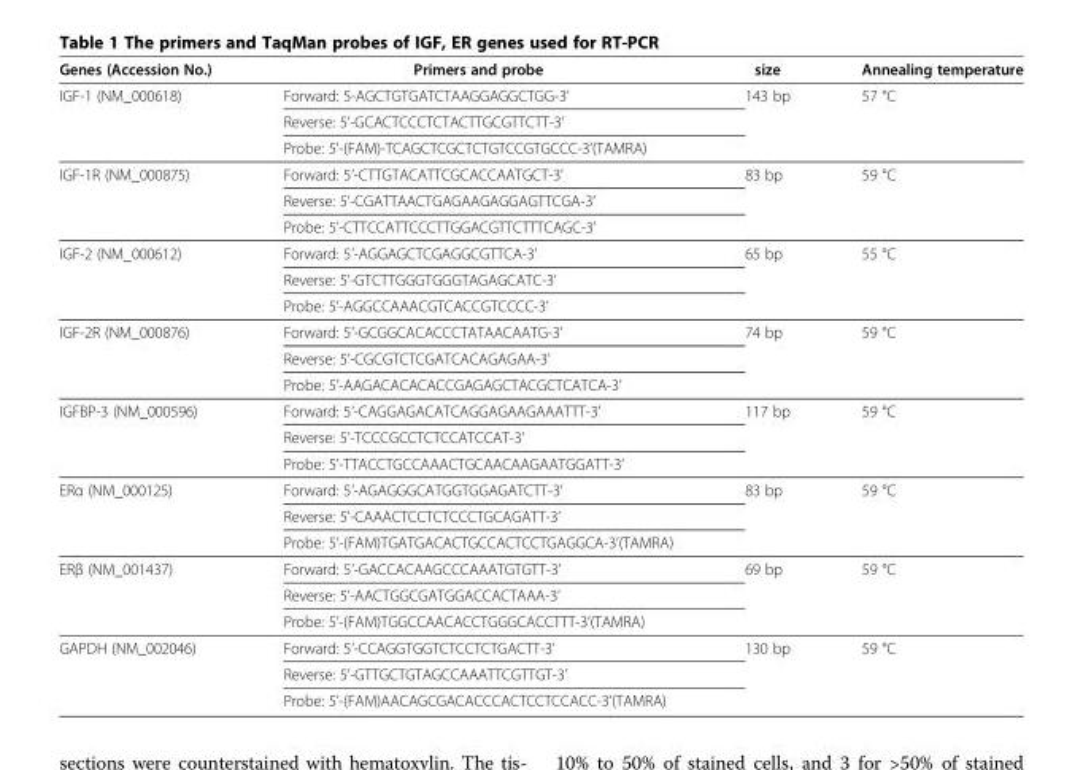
<table><thead><tr><td>Genes (Accession No.)</td><td>Primers and probe</td><td>size</td><td>Annealing temperature</td></tr></thead><tbody><tr><td rowspan="3">IGF-1 (NM_000618)</td><td>Forward: 5-AGCTGTGATCTAAGGAGGCTGG-3’</td><td rowspan="3">143 bp</td><td rowspan="3">57 °C</td></tr><tr><td>Reverse: 5’-GCACTCCCTCTACTTGCGTTCTT-3’</td></tr><tr><td>Probe: 5’-(FAM)-TCAGCTCGCTCTGTCCGTGCCC-3’(TAMRA)</td></tr><tr><td rowspan="3">IGF-1R (NM_000875)</td><td>Forward: 5’-CTTGTACATTCGCACCAATGCT-3’</td><td rowspan="3">83 bp</td><td rowspan="3">59 °C</td></tr><tr><td>Reverse: 5’-CGATTAACTGAGAAGAGGAGTTCGA-3’</td></tr><tr><td>Probe: 5’-CTTCCATTCCCTTGGACGTTCTTTCAGC-3’</td></tr><tr><td rowspan="3">IGF-2 (NM_000612)</td><td>Forward: 5’-AGGAGCTCGAGGCGTTCA-3’</td><td rowspan="3">65 bp</td><td rowspan="3">55 °C</td></tr><tr><td>Reverse: 5’-GTCTTGGGTGGGTAGAGCATC-3’</td></tr><tr><td>Probe: 5’-AGGCCAAACGTCACCGTCCCC-3’</td></tr><tr><td rowspan="3">IGF-2R (NM_000876)</td><td>Forward: 5’-GCGGCACACCCTATAACAATG-3’</td><td rowspan="3">74 bp</td><td rowspan="3">59 °C</td></tr><tr><td>Reverse: 5’-CGCGTCTCGATCACAGAGAA-3’</td></tr><tr><td>Probe: 5’-AAGACACACACCGAGAGCTACGCTCATCA-3’</td></tr><tr><td rowspan="3">IGFBP-3 (NM_000596)</td><td>Forward: 5’-CAGGAGACATCAGGAGAAGAAATTT-3’</td><td rowspan="3">117 bp</td><td rowspan="3">59 °C</td></tr><tr><td>Reverse: 5’-TCCCGCCTCTCCATCCAT-3’</td></tr><tr><td>Probe: 5’-TTACCTGCCAAACTGCAACAAGAATGGATT-3’</td></tr><tr><td rowspan="3">ERα (NM_000125)</td><td>Forward: 5’-AGAGGGCATGGTGGAGATCTT-3’</td><td rowspan="3">83 bp</td><td rowspan="3">59 °C</td></tr><tr><td>Reverse: 5’-CAAACTCCTCTCCCTGCAGATT-3’</td></tr><tr><td>Probe: 5’-(FAM)TGATGACACTGCCACTCCTGAGGCA-3’(TAMRA)</td></tr><tr><td rowspan="3">ERβ (NM_001437)</td><td>Forward: 5’-GACCACAAGCCCAAATGTGTT-3’</td><td rowspan="3">69 bp</td><td rowspan="3">59 °C</td></tr><tr><td>Reverse: 5’-AACTGGCGATGGACCACTAAA-3’</td></tr><tr><td>Probe: 5’-(FAM)TGGCCAACACCTGGGCACCTTT-3’(TAMRA)</td></tr><tr><td rowspan="3">GAPDH (NM_002046)</td><td>Forward: 5’-CCAGGTGGTCTCCTCTGACTT-3’</td><td rowspan="3">130 bp</td><td rowspan="3">59 °C</td></tr><tr><td>Reverse: 5’-GTTGCTGTAGCCAAATTCGTTGT-3’</td></tr><tr><td>Probe: 5’-(FAM)AACAGCGACACCCACTCCTCCACC-3’(TAMRA)</td></tr></tbody></table>